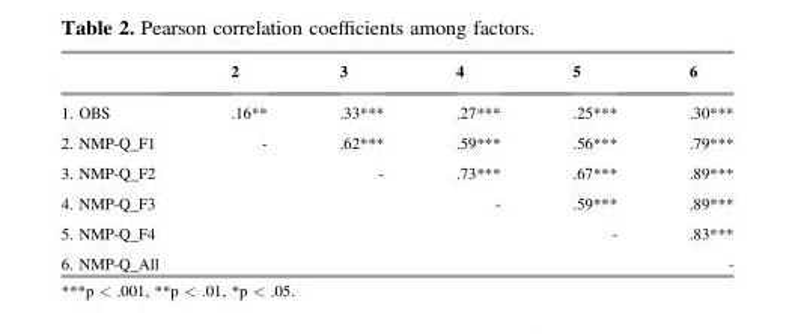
<table><thead><tr><td></td><td>2</td><td>3</td><td>4</td><td>5</td><td>6</td></tr></thead><tbody><tr><td>1. OBS</td><td>.16**</td><td>.33***</td><td>.27***</td><td>.25***</td><td>.30***</td></tr><tr><td>2. NMP-Q_F1</td><td>-</td><td>.62***</td><td>.59***</td><td>.56***</td><td>.79***</td></tr><tr><td>3. NMP-Q_F2</td><td></td><td>-</td><td>.73***</td><td>.67***</td><td>.89***</td></tr><tr><td>4. NMP-Q_F3</td><td></td><td></td><td>-</td><td>.59***</td><td>.89***</td></tr><tr><td>5. NMP-Q_F4</td><td></td><td></td><td></td><td>-</td><td>.83***</td></tr><tr><td>6. NMP-Q_All</td><td></td><td></td><td></td><td></td><td>-</td></tr></tbody></table>